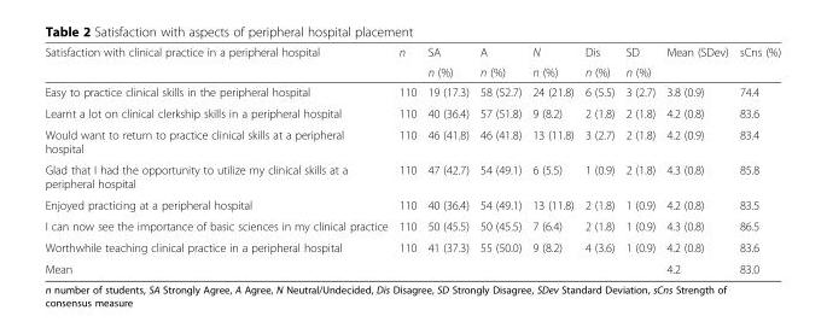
<table><thead><tr><td rowspan="2">Satisfaction with clinical practice in a peripheral hospital</td><td rowspan="2">n</td><td rowspan="2">SA n (%)</td><td rowspan="2">A n (%)</td><td rowspan="2">N n (%)</td><td rowspan="2">Dis n (%)</td><td rowspan="2">SD n (%)</td><td rowspan="2">Mean (SDev)</td><td rowspan="2">sCns (%)</td></tr><tr></tr></thead><tbody><tr><td>Easy to practice clinical skills in the peripheral hospital</td><td>110</td><td>19 (17.3)</td><td>58 (52.7)</td><td>24 (21.8)</td><td>6 (5.5)</td><td>3 (2.7)</td><td>3.8 (0.9)</td><td>74.4</td></tr><tr><td>Learnt a lot on clinical clerkship skills in a peripheral hospital</td><td>110</td><td>40 (36.4)</td><td>57 (51.8)</td><td>9 (8.2)</td><td>2 (1.8)</td><td>2 (1.8)</td><td>4.2 (0.8)</td><td>83.6</td></tr><tr><td>Would want to return to practice clinical skills at a peripheral hospital</td><td>110</td><td>46 (41.8)</td><td>46 (41.8)</td><td>13 (11.8)</td><td>3 (2.7)</td><td>2 (1.8)</td><td>4.2 (0.9)</td><td>83.4</td></tr><tr><td>Glad that I had the opportunity to utilize my clinical skills at a peripheral hospital</td><td>110</td><td>47 (42.7)</td><td>54 (49.1)</td><td>6 (5.5)</td><td>1 (0.9)</td><td>2 (1.8)</td><td>4.3 (0.8)</td><td>85.8</td></tr><tr><td>Enjoyed practicing at a peripheral hospital</td><td>110</td><td>40 (36.4)</td><td>54 (49.1)</td><td>13 (11.8)</td><td>2 (1.8)</td><td>1 (0.9)</td><td>4.2 (0.8)</td><td>83.5</td></tr><tr><td>I can now see the importance of basic sciences in my clinical practice</td><td>110</td><td>50 (45.5)</td><td>50 (45.5)</td><td>7 (6.4)</td><td>2 (1.8)</td><td>1 (0.9)</td><td>4.3 (0.8)</td><td>86.5</td></tr><tr><td>Worthwhile teaching clinical practice in a peripheral hospital</td><td>110</td><td>41 (37.3)</td><td>55 (50.0)</td><td>9 (8.2)</td><td>4 (3.6)</td><td>1 (0.9)</td><td>4.2 (0.8)</td><td>83.6</td></tr><tr><td colspan="7">Mean</td><td>4.2</td><td>83.0</td></tr></tbody></table>